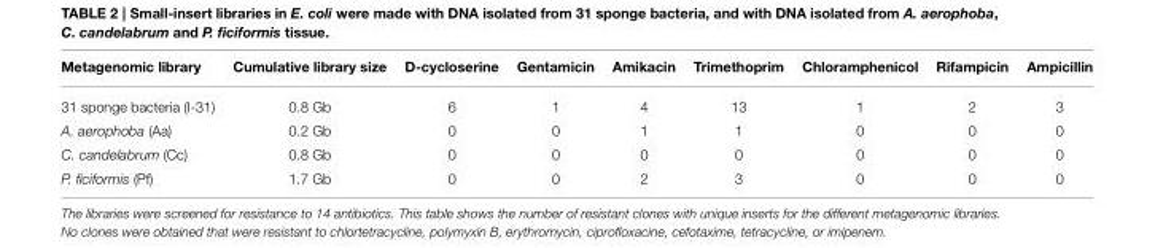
<table><thead><tr><td>Metagenomic library</td><td>Cumulative library size</td><td>D-cycloserine</td><td>Gentamicin</td><td>Amikacin</td><td>Trimethoprim</td><td>Chloramphenicol</td><td>Rifampicin</td><td>Ampicillin</td></tr></thead><tbody><tr><td>31 sponge bacteria (I-31)</td><td>0.8 Gb</td><td>6</td><td>1</td><td>4</td><td>13</td><td>1</td><td>2</td><td>3</td></tr><tr><td>A. aerophoba (Aa)</td><td>0.2 Gb</td><td>0</td><td>0</td><td>1</td><td>1</td><td>0</td><td>0</td><td>0</td></tr><tr><td>C. candelabrum (Cc)</td><td>0.8 Gb</td><td>0</td><td>0</td><td>0</td><td>0</td><td>0</td><td>0</td><td>0</td></tr><tr><td>P. ficiformis (Pf)</td><td>1.7 Gb</td><td>0</td><td>0</td><td>2</td><td>3</td><td>0</td><td>0</td><td>0</td></tr></tbody></table>